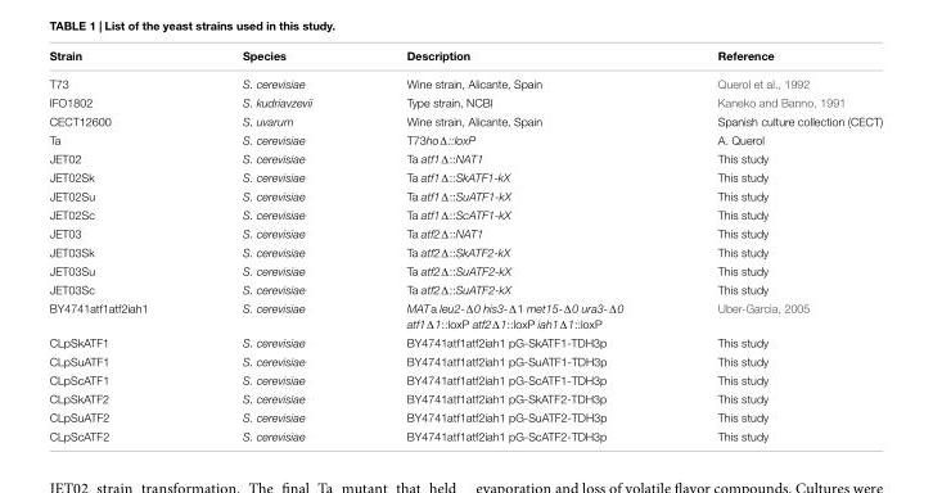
<table><thead><tr><td>Strain</td><td>Species</td><td>Description</td><td>Reference</td></tr></thead><tbody><tr><td>T73</td><td>S. cerevisiae</td><td>Wine strain, Alicante, Spain</td><td>Querol et al., 1992</td></tr><tr><td>IFO1802</td><td>S. kudriavzevii</td><td>Type strain, NCBI</td><td>Kaneko and Banno, 1991</td></tr><tr><td>CECT12600</td><td>S. uvarum</td><td>Wine strain, Alicante, Spain</td><td>Spanish culture collection (CECT)</td></tr><tr><td>Ta</td><td>S. cerevisiae</td><td>T73hoΔ::loxP</td><td>A. Querol</td></tr><tr><td>JET02</td><td>S. cerevisiae</td><td>Ta atf1Δ::NAT1</td><td>This study</td></tr><tr><td>JET02Sk</td><td>S. cerevisiae</td><td>Ta atf1Δ::SkATF1-kX</td><td>This study</td></tr><tr><td>JET02Su</td><td>S. cerevisiae</td><td>Ta atf1Δ::SuATF1-kX</td><td>This study</td></tr><tr><td>JET02Sc</td><td>S. cerevisiae</td><td>Ta atf1Δ::ScATF1-kX</td><td>This study</td></tr><tr><td>JET03</td><td>S. cerevisiae</td><td>Ta atf2Δ::NAT1</td><td>This study</td></tr><tr><td>JET03Sk</td><td>S. cerevisiae</td><td>Ta atf2Δ::SkATF2-kX</td><td>This study</td></tr><tr><td>JET03Su</td><td>S. cerevisiae</td><td>Ta atf2Δ::SuATF2-kX</td><td>This study</td></tr><tr><td>JET03Sc</td><td>S. cerevisiae</td><td>Ta atf2Δ::SuATF2-kX</td><td>This study</td></tr><tr><td>BY4741atf1atf2iah1</td><td>S. cerevisiae</td><td>MATa leu2-Δ0 his3-Δ1 met15-Δ0 ura3-Δ0 atf1Δ1::loxP atf2Δ1::loxP iah1Δ1::loxP</td><td>Uber-Garcia, 2005</td></tr><tr><td>CLpSkATF1</td><td>S. cerevisiae</td><td>BY4741atf1atf2iah1 pG-SkATF1-TDH3p</td><td>This study</td></tr><tr><td>CLpSuATF1</td><td>S. cerevisiae</td><td>BY4741atf1atf2iah1 pG-SuATF1-TDH3p</td><td>This study</td></tr><tr><td>CLpScATF1</td><td>S. cerevisiae</td><td>BY4741atf1atf2iah1 pG-ScATF1-TDH3p</td><td>This study</td></tr><tr><td>CLpSkATF2</td><td>S. cerevisiae</td><td>BY4741atf1atf2iah1 pG-SkATF2-TDH3p</td><td>This study</td></tr><tr><td>CLpSuATF2</td><td>S. cerevisiae</td><td>BY4741atf1atf2iah1 pG-SuATF2-TDH3p</td><td>This study</td></tr><tr><td>CLpScATF2</td><td>S. cerevisiae</td><td>BY4741atf1atf2iah1 pG-ScATF2-TDH3p</td><td>This study</td></tr></tbody></table>